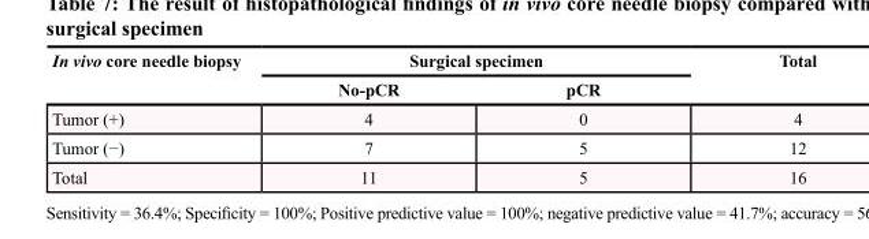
<table><thead><tr><td rowspan="2">In vivo core needle biopsy</td><td colspan="2">Surgical specimen</td><td rowspan="2">Total</td></tr><tr><td>No-pCR</td><td>pCR</td></tr></thead><tbody><tr><td>Tumor (+)</td><td>4</td><td>0</td><td>4</td></tr><tr><td>Tumor (−)</td><td>7</td><td>5</td><td>12</td></tr><tr><td>Total</td><td>11</td><td>5</td><td>16</td></tr></tbody></table>